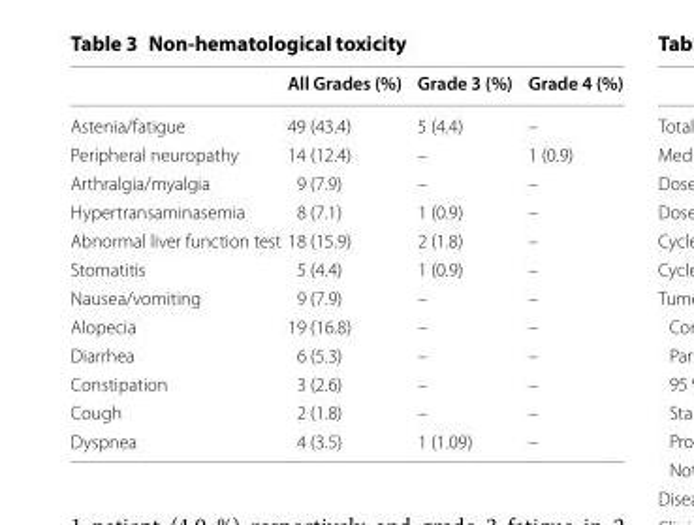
<table><thead><tr><td></td><td>All Grades (%)</td><td>Grade 3 (%)</td><td>Grade 4 (%)</td></tr></thead><tbody><tr><td>Astenia/fatigue</td><td>49 (43.4)</td><td>5 (4.4)</td><td>–</td></tr><tr><td>Peripheral neuropathy</td><td>14 (12.4)</td><td>–</td><td>1 (0.9)</td></tr><tr><td>Arthralgia/myalgia</td><td>9 (7.9)</td><td>–</td><td>–</td></tr><tr><td>Hypertransaminasemia</td><td>8 (7.1)</td><td>1 (0.9)</td><td>–</td></tr><tr><td>Abnormal liver function test</td><td>18 (15.9)</td><td>2 (1.8)</td><td>–</td></tr><tr><td>Stomatitis</td><td>5 (4.4)</td><td>1 (0.9)</td><td>–</td></tr><tr><td>Nausea/vomiting</td><td>9 (7.9)</td><td>–</td><td>–</td></tr><tr><td>Alopecia</td><td>19 (16.8)</td><td>–</td><td>–</td></tr><tr><td>Diarrhea</td><td>6 (5.3)</td><td>–</td><td>–</td></tr><tr><td>Constipation</td><td>3 (2.6)</td><td>–</td><td>–</td></tr><tr><td>Cough</td><td>2 (1.8)</td><td>–</td><td>–</td></tr><tr><td>Dyspnea</td><td>4 (3.5)</td><td>1 (1.09)</td><td>–</td></tr></tbody></table>